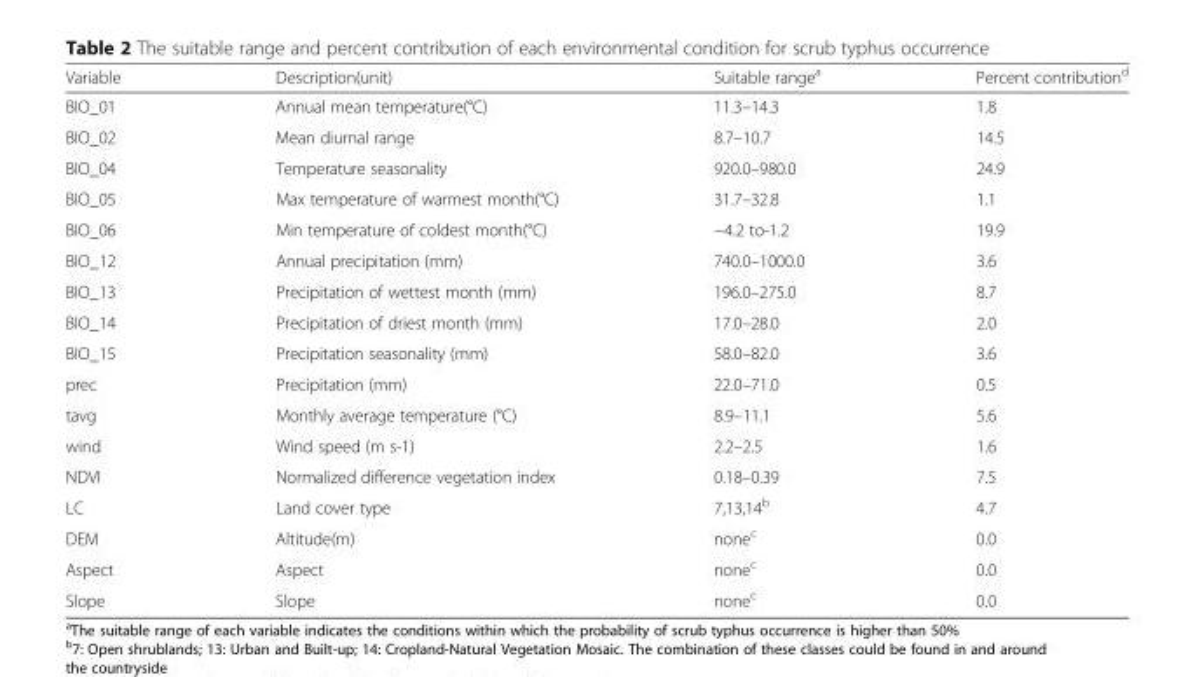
<table><thead><tr><td>Variable</td><td>Description(unit)</td><td>Suitable range<sup>a</sup></td><td>Percent contribution<sup>d</sup></td></tr></thead><tbody><tr><td>BIO_01</td><td>Annual mean temperature(°C)</td><td>11.3–14.3</td><td>1.8</td></tr><tr><td>BIO_02</td><td>Mean diurnal range</td><td>8.7–10.7</td><td>14.5</td></tr><tr><td>BIO_04</td><td>Temperature seasonality</td><td>920.0–980.0</td><td>24.9</td></tr><tr><td>BIO_05</td><td>Max temperature of warmest month(°C)</td><td>31.7–32.8</td><td>1.1</td></tr><tr><td>BIO_06</td><td>Min temperature of coldest month(°C)</td><td>−4.2 to-1.2</td><td>19.9</td></tr><tr><td>BIO_12</td><td>Annual precipitation (mm)</td><td>740.0–1000.0</td><td>3.6</td></tr><tr><td>BIO_13</td><td>Precipitation of wettest month (mm)</td><td>196.0–275.0</td><td>8.7</td></tr><tr><td>BIO_14</td><td>Precipitation of driest month (mm)</td><td>17.0–28.0</td><td>2.0</td></tr><tr><td>BIO_15</td><td>Precipitation seasonality (mm)</td><td>58.0–82.0</td><td>3.6</td></tr><tr><td>prec</td><td>Precipitation (mm)</td><td>22.0–71.0</td><td>0.5</td></tr><tr><td>tavg</td><td>Monthly average temperature (°C)</td><td>8.9–11.1</td><td>5.6</td></tr><tr><td>wind</td><td>Wind speed (m s-1)</td><td>2.2–2.5</td><td>1.6</td></tr><tr><td>NDVI</td><td>Normalized difference vegetation index</td><td>0.18–0.39</td><td>7.5</td></tr><tr><td>LC</td><td>Land cover type</td><td>7,13,14<sup>b</sup></td><td>4.7</td></tr><tr><td>DEM</td><td>Altitude(m)</td><td>none<sup>c</sup></td><td>0.0</td></tr><tr><td>Aspect</td><td>Aspect</td><td>none<sup>c</sup></td><td>0.0</td></tr><tr><td>Slope</td><td>Slope</td><td>none<sup>c</sup></td><td>0.0</td></tr></tbody></table>